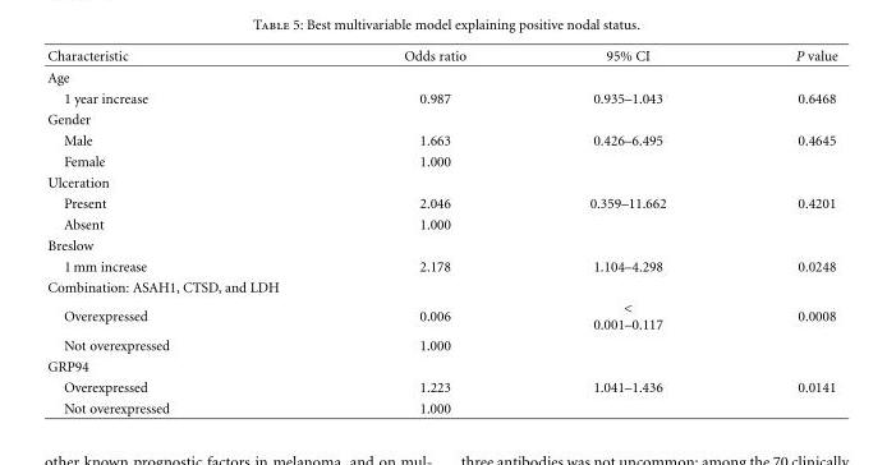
<table><thead><tr><td>Characteristic</td><td>Odds ratio</td><td>95% CI</td><td>P value</td></tr></thead><tbody><tr><td colspan="4">Age</td></tr><tr><td>1 year increase</td><td>0.987</td><td>0.935–1.043</td><td>0.6468</td></tr><tr><td colspan="4">Gender</td></tr><tr><td>Male</td><td>1.663</td><td>0.426–6.495</td><td>0.4645</td></tr><tr><td>Female</td><td>1.000</td><td></td><td></td></tr><tr><td colspan="4">Ulceration</td></tr><tr><td>Present</td><td>2.046</td><td>0.359–11.662</td><td>0.4201</td></tr><tr><td>Absent</td><td>1.000</td><td></td><td></td></tr><tr><td colspan="4">Breslow</td></tr><tr><td>1 mm increase</td><td>2.178</td><td>1.104–4.298</td><td>0.0248</td></tr><tr><td colspan="4">Combination: ASAH1, CTSD, and LDH</td></tr><tr><td>Overexpressed</td><td>0.006</td><td>&lt; 0.001–0.117</td><td>0.0008</td></tr><tr><td>Not overexpressed</td><td>1.000</td><td></td><td></td></tr><tr><td colspan="4">GRP94</td></tr><tr><td>Overexpressed</td><td>1.223</td><td>1.041–1.436</td><td>0.0141</td></tr><tr><td>Not overexpressed</td><td>1.000</td><td></td><td></td></tr></tbody></table>